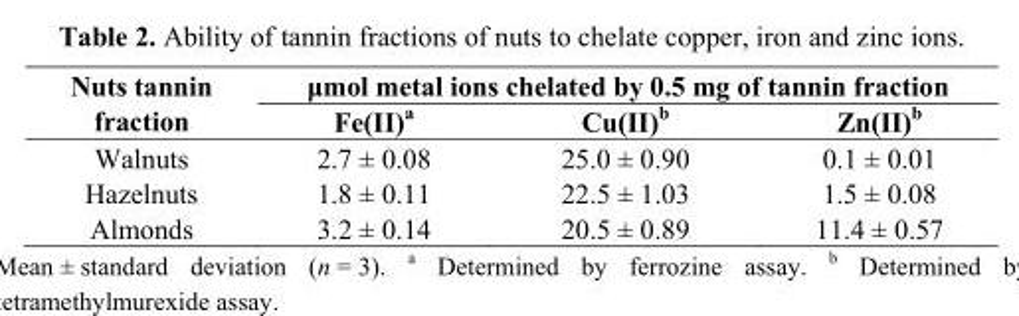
<table><thead><tr><td rowspan="2">Nuts tannin fraction</td><td colspan="3">μmol metal ions chelated by 0.5 mg of tannin fraction</td></tr><tr><td>Fe(II)<sup>a</sup></td><td>Cu(II)<sup>b</sup></td><td>Zn(II)<sup>b</sup></td></tr></thead><tbody><tr><td>Walnuts</td><td>2.7 ± 0.08</td><td>25.0 ± 0.90</td><td>0.1 ± 0.01</td></tr><tr><td>Hazelnuts</td><td>1.8 ± 0.11</td><td>22.5 ± 1.03</td><td>1.5 ± 0.08</td></tr><tr><td>Almonds</td><td>3.2 ± 0.14</td><td>20.5 ± 0.89</td><td>11.4 ± 0.57</td></tr></tbody></table>